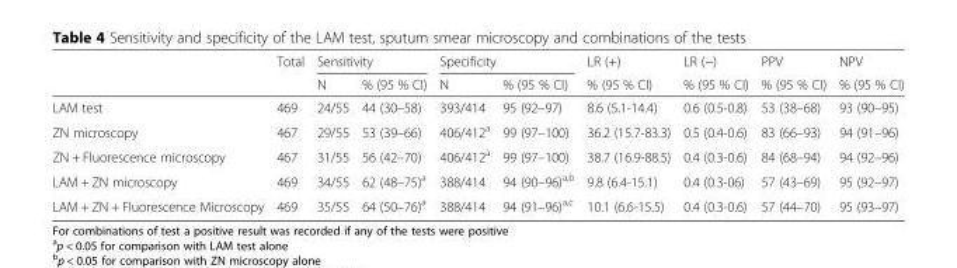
<table><thead><tr><td rowspan="2"></td><td rowspan="2">Total</td><td colspan="2">Sensitivity</td><td colspan="2">Specificity</td><td rowspan="2">LR (+) % (95 % CI)</td><td rowspan="2">LR (−) % (95 % CI)</td><td rowspan="2">PPV % (95 % CI)</td><td rowspan="2">NPV % (95 % CI)</td></tr><tr><td>N</td><td>% (95 % CI)</td><td>N</td><td>% (95 % CI)</td></tr></thead><tbody><tr><td>LAM test</td><td>469</td><td>24/55</td><td>44 (30–58)</td><td>393/414</td><td>95 (92–97)</td><td>8.6 (5.1-14.4)</td><td>0.6 (0.5-0.8)</td><td>53 (38–68)</td><td>93 (90–95)</td></tr><tr><td>ZN microscopy</td><td>467</td><td>29/55</td><td>53 (39–66)</td><td>406/412<sup>a</sup></td><td>99 (97–100)</td><td>36.2 (15.7-83.3)</td><td>0.5 (0.4-0.6)</td><td>83 (66–93)</td><td>94 (91–96)</td></tr><tr><td>ZN + Fluorescence microscopy</td><td>467</td><td>31/55</td><td>56 (42–70)</td><td>406/412<sup>a</sup></td><td>99 (97–100)</td><td>38.7 (16.9-88.5)</td><td>0.4 (0.3-0.6)</td><td>84 (68–94)</td><td>94 (92–96)</td></tr><tr><td>LAM + ZN microscopy</td><td>469</td><td>34/55</td><td>62 (48–75)<sup>a</sup></td><td>388/414</td><td>94 (90–96)<sup>a,b</sup></td><td>9.8 (6.4-15.1)</td><td>0.4 (0.3-06)</td><td>57 (43–69)</td><td>95 (92–97)</td></tr><tr><td>LAM + ZN + Fluorescence Microscopy</td><td>469</td><td>35/55</td><td>64 (50–76)<sup>a</sup></td><td>388/414</td><td>94 (91–96)<sup>a,c</sup></td><td>10.1 (6.6-15.5)</td><td>0.4 (0.3-0.6)</td><td>57 (44–70)</td><td>95 (93–97)</td></tr></tbody></table>